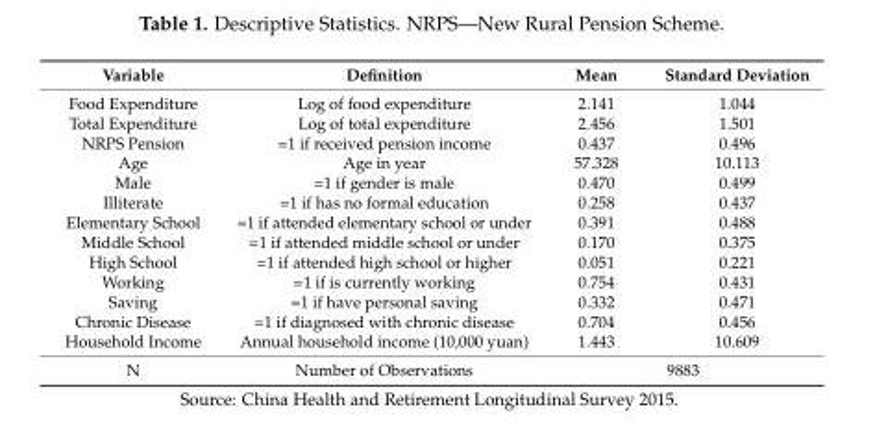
<table><thead><tr><td>Variable</td><td>Definition</td><td>Mean</td><td>Standard Deviation</td></tr></thead><tbody><tr><td>Food Expenditure</td><td>Log of food expenditure</td><td>2.141</td><td>1.044</td></tr><tr><td>Total Expenditure</td><td>Log of total expenditure</td><td>2.456</td><td>1.501</td></tr><tr><td>NRPS Pension</td><td>=1 if received pension income</td><td>0.437</td><td>0.496</td></tr><tr><td>Age</td><td>Age in year</td><td>57.328</td><td>10.113</td></tr><tr><td>Male</td><td>=1 if gender is male</td><td>0.470</td><td>0.499</td></tr><tr><td>Illiterate</td><td>=1 if has no formal education</td><td>0.258</td><td>0.437</td></tr><tr><td>Elementary School</td><td>=1 if attended elementary school or under</td><td>0.391</td><td>0.488</td></tr><tr><td>Middle School</td><td>=1 if attended middle school or under</td><td>0.170</td><td>0.375</td></tr><tr><td>High School</td><td>=1 if attended high school or higher</td><td>0.051</td><td>0.221</td></tr><tr><td>Working</td><td>=1 if is currently working</td><td>0.754</td><td>0.431</td></tr><tr><td>Saving</td><td>=1 if have personal saving</td><td>0.332</td><td>0.471</td></tr><tr><td>Chronic Disease</td><td>=1 if diagnosed with chronic disease</td><td>0.704</td><td>0.456</td></tr><tr><td>Household Income</td><td>Annual household income (10,000 yuan)</td><td>1.443</td><td>10.609</td></tr><tr><td>N</td><td>Number of Observations</td><td colspan="2">9883</td></tr></tbody></table>